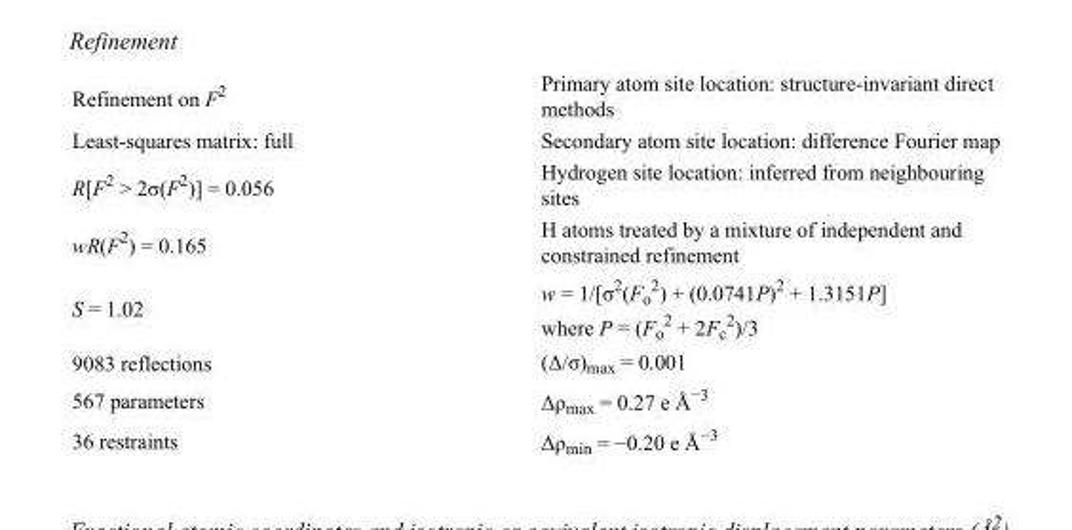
<table><tbody><tr><td>Refinement on F<sup>2</sup></td><td>Primary atom site location: structure-invariant direct methods</td></tr><tr><td>Least-squares matrix: full</td><td>Secondary atom site location: difference Fourier map</td></tr><tr><td>R[F<sup>2</sup> &gt; 2σ(F<sup>2</sup>)] = 0.056</td><td>Hydrogen site location: inferred from neighbouring sites</td></tr><tr><td>wR(F<sup>2</sup>) = 0.165</td><td>H atoms treated by a mixture of independent and constrained refinement</td></tr><tr><td>S = 1.02</td><td>w = 1/[σ<sup>2</sup>(F<sub>o</sub> <sup>2</sup>) + (0.0741P)<sup>2</sup> + 1.3151P] where P = (F<sub>o</sub> <sup>2</sup> + 2F<sub>c</sub> <sup>2</sup>)/3</td></tr><tr><td>9083 reflections</td><td>(Δ/σ)<sub>max</sub> = 0.001</td></tr><tr><td>567 parameters</td><td>Δρ<sub>max</sub> = 0.27 e Å<sup>−3</sup></td></tr><tr><td>36 restraints</td><td>Δρ<sub>min</sub> = −0.20 e Å<sup>−3</sup></td></tr></tbody></table>